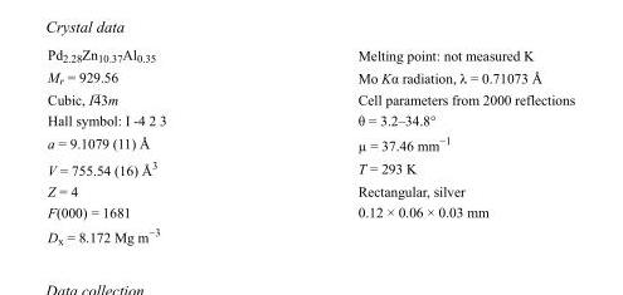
<table><tbody><tr><td>Pd<sub>2.28</sub>Zn<sub>10.37</sub>Al<sub>0.35</sub></td><td>Melting point: not measured K</td></tr><tr><td>M<sub>r</sub> = 929.56</td><td>Mo Kα radiation, λ = 0.71073 Å</td></tr><tr><td>Cubic, I43m</td><td>Cell parameters from 2000 reflections</td></tr><tr><td>Hall symbol: I -4 2 3</td><td>θ = 3.2–34.8°</td></tr><tr><td>a = 9.1079 (11) Å</td><td>µ = 37.46 mm<sup>−1</sup></td></tr><tr><td>V = 755.54 (16) Å<sup>3</sup></td><td>T = 293 K</td></tr><tr><td>Z = 4</td><td>Rectangular, silver</td></tr><tr><td>F(000) = 1681</td><td>0.12 × 0.06 × 0.03 mm</td></tr><tr><td>D<sub>x</sub> = 8.172 Mg m<sup>−3</sup></td><td></td></tr></tbody></table>